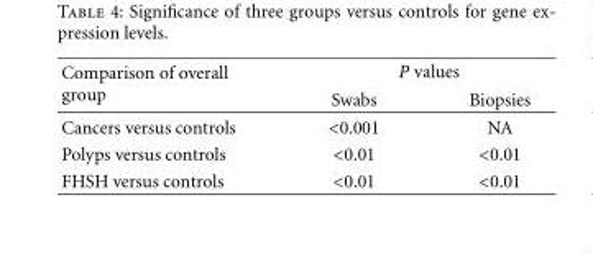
<table><thead><tr><td rowspan="2">Comparison of overall group</td><td colspan="2">P values</td></tr><tr><td>Swabs</td><td>Biopsies</td></tr></thead><tbody><tr><td>Cancers versus controls</td><td>&lt;0.001</td><td>NA</td></tr><tr><td>Polyps versus controls</td><td>&lt;0.01</td><td>&lt;0.01</td></tr><tr><td>FHSH versus controls</td><td>&lt;0.01</td><td>&lt;0.01</td></tr></tbody></table>